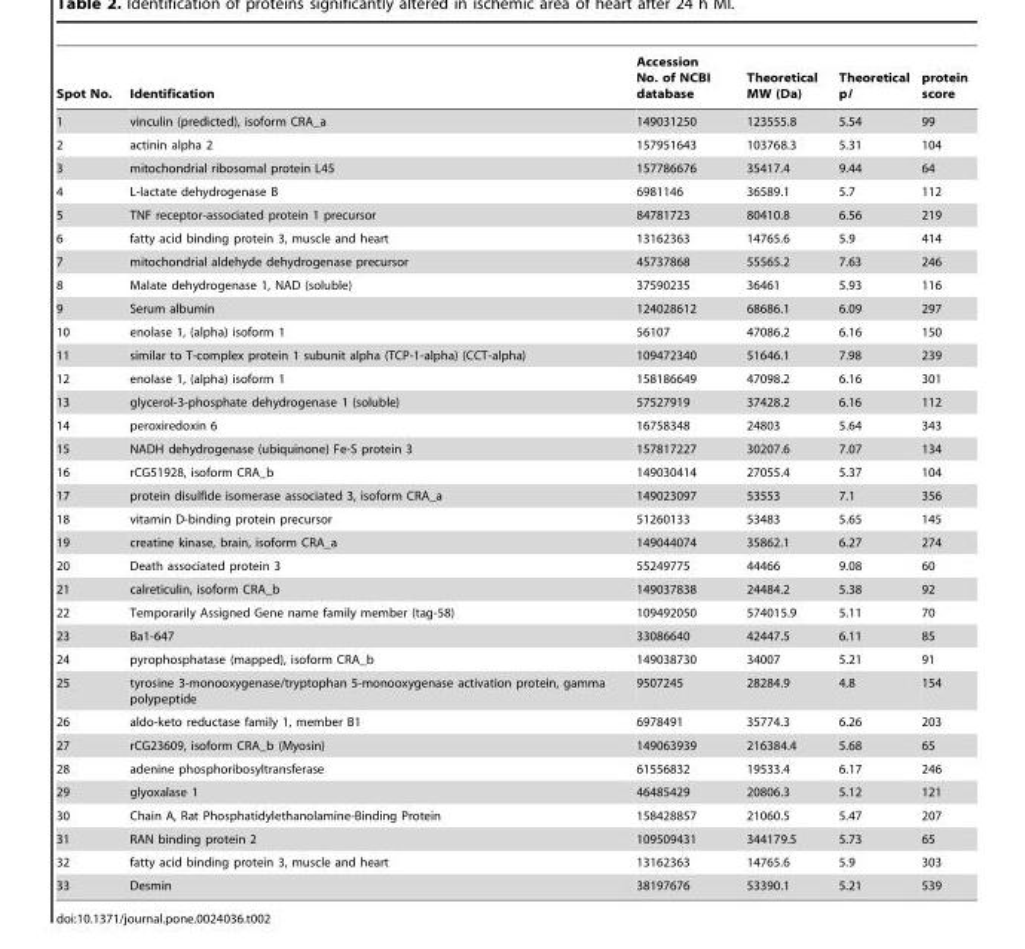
<table><thead><tr><td>Spot No.</td><td>Identification</td><td>Accession No. of NCBI database</td><td>Theoretical MW (Da)</td><td>Theoretical pI</td><td>protein score</td></tr></thead><tbody><tr><td>1</td><td>vinculin (predicted), isoform CRA_a</td><td>149031250</td><td>123555.8</td><td>5.54</td><td>99</td></tr><tr><td>2</td><td>actinin alpha 2</td><td>157951643</td><td>103768.3</td><td>5.31</td><td>104</td></tr><tr><td>3</td><td>mitochondrial ribosomal protein L45</td><td>157786676</td><td>35417.4</td><td>9.44</td><td>64</td></tr><tr><td>4</td><td>L-lactate dehydrogenase B</td><td>6981146</td><td>36589.1</td><td>5.7</td><td>112</td></tr><tr><td>5</td><td>TNF receptor-associated protein 1 precursor</td><td>84781723</td><td>80410.8</td><td>6.56</td><td>219</td></tr><tr><td>6</td><td>fatty acid binding protein 3, muscle and heart</td><td>13162363</td><td>14765.6</td><td>5.9</td><td>414</td></tr><tr><td>7</td><td>mitochondrial aldehyde dehydrogenase precursor</td><td>45737868</td><td>55565.2</td><td>7.63</td><td>246</td></tr><tr><td>8</td><td>Malate dehydrogenase 1, NAD (soluble)</td><td>37590235</td><td>36461</td><td>5.93</td><td>116</td></tr><tr><td>9</td><td>Serum albumin</td><td>124028612</td><td>68686.1</td><td>6.09</td><td>297</td></tr><tr><td>10</td><td>enolase 1, (alpha) isoform 1</td><td>56107</td><td>47086.2</td><td>6.16</td><td>150</td></tr><tr><td>11</td><td>similar to T-complex protein 1 subunit alpha (TCP-1-alpha) (CCT-alpha)</td><td>109472340</td><td>51646.1</td><td>7.98</td><td>239</td></tr><tr><td>12</td><td>enolase 1, (alpha) isoform 1</td><td>158186649</td><td>47098.2</td><td>6.16</td><td>301</td></tr><tr><td>13</td><td>glycerol-3-phosphate dehydrogenase 1 (soluble)</td><td>57527919</td><td>37428.2</td><td>6.16</td><td>112</td></tr><tr><td>14</td><td>peroxiredoxin 6</td><td>16758348</td><td>24803</td><td>5.64</td><td>343</td></tr><tr><td>15</td><td>NADH dehydrogenase (ubiquinone) Fe-S protein 3</td><td>157817227</td><td>30207.6</td><td>7.07</td><td>134</td></tr><tr><td>16</td><td>rCG51928, isoform CRA_b</td><td>149030414</td><td>27055.4</td><td>5.37</td><td>104</td></tr><tr><td>17</td><td>protein disulfide isomerase associated 3, isoform CRA_a</td><td>149023097</td><td>53553</td><td>7.1</td><td>356</td></tr><tr><td>18</td><td>vitamin D-binding protein precursor</td><td>51260133</td><td>53483</td><td>5.65</td><td>145</td></tr><tr><td>19</td><td>creatine kinase, brain, isoform CRA_a</td><td>149044074</td><td>35862.1</td><td>6.27</td><td>274</td></tr><tr><td>20</td><td>Death associated protein 3</td><td>55249775</td><td>44466</td><td>9.08</td><td>60</td></tr><tr><td>21</td><td>calreticulin, isoform CRA_b</td><td>149037838</td><td>24484.2</td><td>5.38</td><td>92</td></tr><tr><td>22</td><td>Temporarily Assigned Gene name family member (tag-58)</td><td>109492050</td><td>574015.9</td><td>5.11</td><td>70</td></tr><tr><td>23</td><td>Ba1-647</td><td>33086640</td><td>42447.5</td><td>6.11</td><td>85</td></tr><tr><td>24</td><td>pyrophosphatase (mapped), isoform CRA_b</td><td>149038730</td><td>34007</td><td>5.21</td><td>91</td></tr><tr><td>25</td><td>tyrosine 3-monooxygenase/tryptophan 5-monooxygenase activation protein, gamma polypeptide</td><td>9507245</td><td>28284.9</td><td>4.8</td><td>154</td></tr><tr><td>26</td><td>aldo-keto reductase family 1, member B1</td><td>6978491</td><td>35774.3</td><td>6.26</td><td>203</td></tr><tr><td>27</td><td>rCG23609, isoform CRA_b (Myosin)</td><td>149063939</td><td>216384.4</td><td>5.68</td><td>65</td></tr><tr><td>28</td><td>adenine phosphoribosyltransferase</td><td>61556832</td><td>19533.4</td><td>6.17</td><td>246</td></tr><tr><td>29</td><td>glyoxalase 1</td><td>46485429</td><td>20806.3</td><td>5.12</td><td>121</td></tr><tr><td>30</td><td>Chain A, Rat Phosphatidylethanolamine-Binding Protein</td><td>158428857</td><td>21060.5</td><td>5.47</td><td>207</td></tr><tr><td>31</td><td>RAN binding protein 2</td><td>109509431</td><td>344179.5</td><td>5.73</td><td>65</td></tr><tr><td>32</td><td>fatty acid binding protein 3, muscle and heart</td><td>13162363</td><td>14765.6</td><td>5.9</td><td>303</td></tr><tr><td>33</td><td>Desmin</td><td>38197676</td><td>53390.1</td><td>5.21</td><td>539</td></tr></tbody></table>